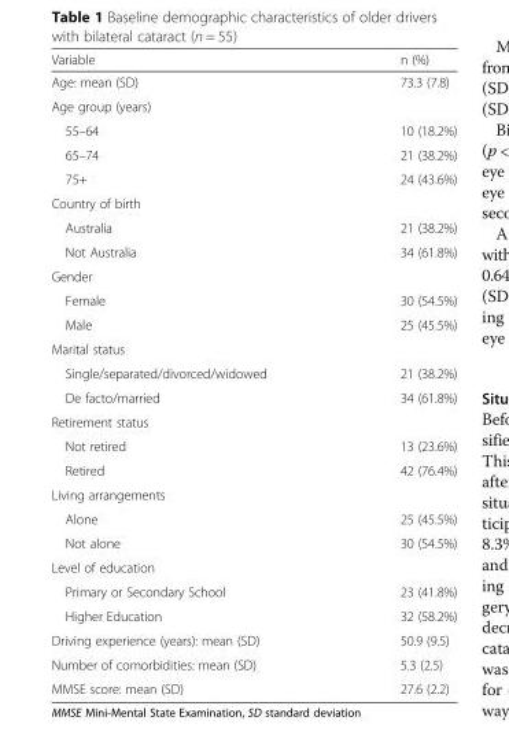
<table><thead><tr><td>Variable</td><td>n (%)</td></tr></thead><tbody><tr><td>Age: mean (SD)</td><td>73.3 (7.8)</td></tr><tr><td colspan="2">Age group (years)</td></tr><tr><td>55–64</td><td>10 (18.2%)</td></tr><tr><td>65–74</td><td>21 (38.2%)</td></tr><tr><td>75+</td><td>24 (43.6%)</td></tr><tr><td colspan="2">Country of birth</td></tr><tr><td>Australia</td><td>21 (38.2%)</td></tr><tr><td>Not Australia</td><td>34 (61.8%)</td></tr><tr><td colspan="2">Gender</td></tr><tr><td>Female</td><td>30 (54.5%)</td></tr><tr><td>Male</td><td>25 (45.5%)</td></tr><tr><td colspan="2">Marital status</td></tr><tr><td>Single/separated/divorced/widowed</td><td>21 (38.2%)</td></tr><tr><td>De facto/married</td><td>34 (61.8%)</td></tr><tr><td colspan="2">Retirement status</td></tr><tr><td>Not retired</td><td>13 (23.6%)</td></tr><tr><td>Retired</td><td>42 (76.4%)</td></tr><tr><td colspan="2">Living arrangements</td></tr><tr><td>Alone</td><td>25 (45.5%)</td></tr><tr><td>Not alone</td><td>30 (54.5%)</td></tr><tr><td colspan="2">Level of education</td></tr><tr><td>Primary or Secondary School</td><td>23 (41.8%)</td></tr><tr><td>Higher Education</td><td>32 (58.2%)</td></tr><tr><td>Driving experience (years): mean (SD)</td><td>50.9 (9.5)</td></tr><tr><td>Number of comorbidities: mean (SD)</td><td>5.3 (2.5)</td></tr><tr><td>MMSE score: mean (SD)</td><td>27.6 (2.2)</td></tr></tbody></table>